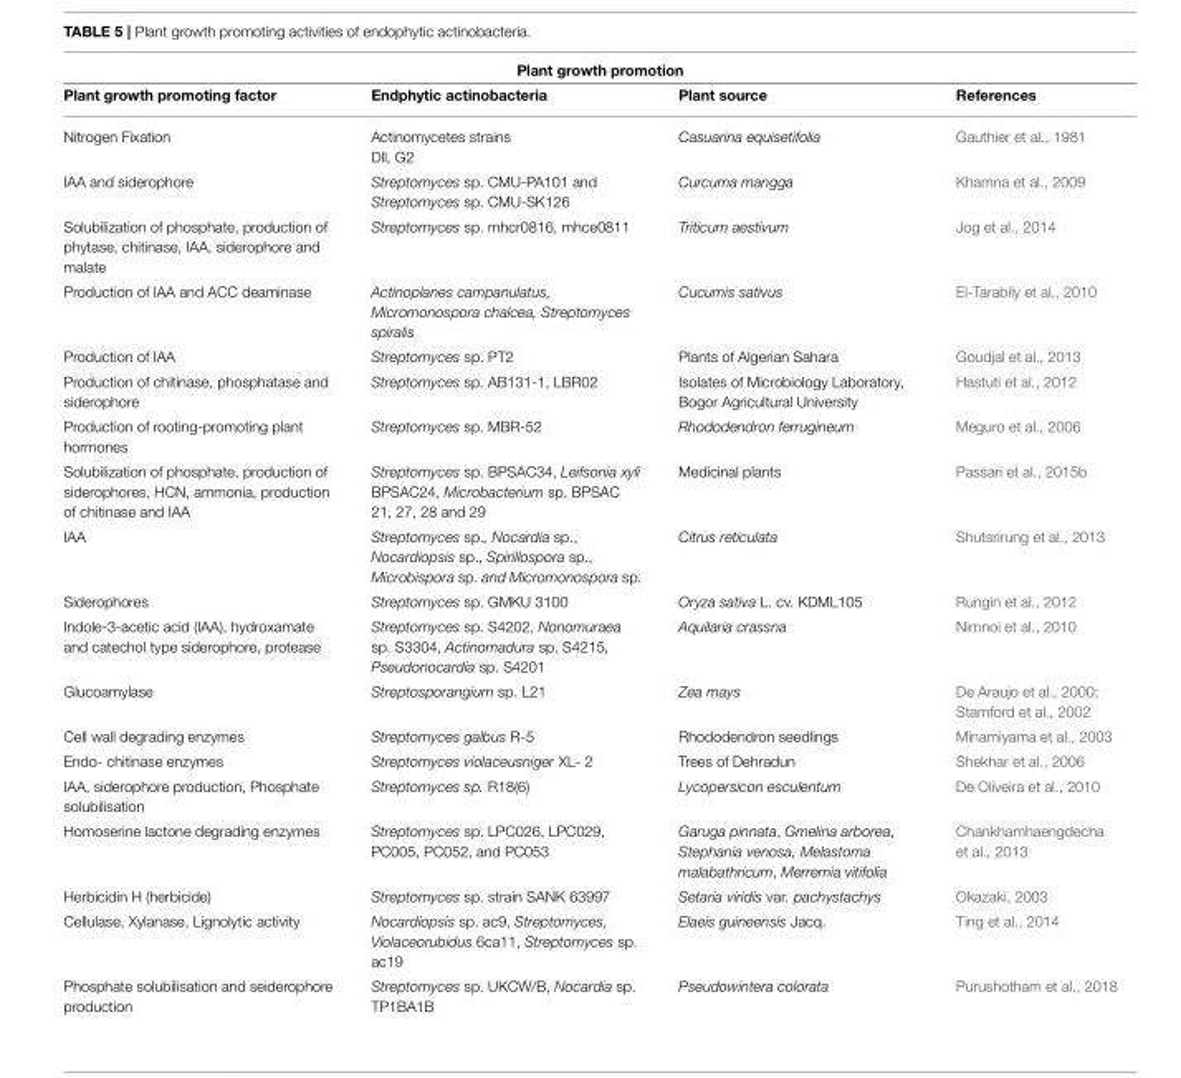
<table><thead><tr><td colspan="4">Plant growth promotion</td></tr><tr><td>Plant growth promoting factor</td><td>Endphytic actinobacteria</td><td>Plant source</td><td>References</td></tr></thead><tbody><tr><td>Nitrogen Fixation</td><td>Actinomycetes strains Dll, G2</td><td>Casuarina equisetifolia</td><td>Gauthier et al., 1981</td></tr><tr><td>IAA and siderophore</td><td>Streptomyces sp. CMU-PA101 and Streptomyces sp. CMU-SK126</td><td>Curcuma mangga</td><td>Khamna et al., 2009</td></tr><tr><td>Solubilization of phosphate, production of phytase, chitinase, IAA, siderophore and malate</td><td>Streptomyces sp. mhcr0816, mhce0811</td><td>Triticum aestivum</td><td>Jog et al., 2014</td></tr><tr><td>Production of IAA and ACC deaminase</td><td>Actinoplanes campanulatus, Micromonospora chalcea, Streptomyces spiralis</td><td>Cucumis sativus</td><td>El-Tarabily et al., 2010</td></tr><tr><td>Production of IAA</td><td>Streptomyces sp. PT2</td><td>Plants of Algerian Sahara</td><td>Goudjal et al., 2013</td></tr><tr><td>Production of chitinase, phosphatase and siderophore</td><td>Streptomyces sp. AB131-1, LBR02</td><td>Isolates of Microbiology Laboratory, Bogor Agricultural University</td><td>Hastuti et al., 2012</td></tr><tr><td>Production of rooting-promoting plant hormones</td><td>Streptomyces sp. MBR-52</td><td>Rhododendron ferrugineum</td><td>Meguro et al., 2006</td></tr><tr><td>Solubilization of phosphate, production of siderophores, HCN, ammonia, production of chitinase and IAA</td><td>Streptomyces sp. BPSAC34, Leifsonia xyli BPSAC24, Microbacterium sp. BPSAC 21, 27, 28 and 29</td><td>Medicinal plants</td><td>Passari et al., 2015b</td></tr><tr><td>IAA</td><td>Streptomyces sp., Nocardia sp., Nocardiopsis sp., Spirillospora sp., Microbispora sp. and Micromonospora sp.</td><td>Citrus reticulata</td><td>Shutsrirung et al., 2013</td></tr><tr><td>Siderophores</td><td>Streptomyces sp. GMKU 3100</td><td>Oryza sativa L. cv. KDML105</td><td>Rungin et al., 2012</td></tr><tr><td>Indole-3-acetic acid (IAA), hydroxamate and catechol type siderophore, protease</td><td>Streptomyces sp. S4202, Nonomuraea sp. S3304, Actinomadura sp. S4215, Pseudonocardia sp. S4201</td><td>Aquilaria crassna</td><td>Nimnoi et al., 2010</td></tr><tr><td>Glucoamylase</td><td>Streptosporangium sp. L21</td><td>Zea mays</td><td>De Araujo et al., 2000; Stamford et al., 2002</td></tr><tr><td>Cell wall degrading enzymes</td><td>Streptomyces galbus R-5</td><td>Rhododendron seedlings</td><td>Minamiyama et al., 2003</td></tr><tr><td>Endo- chitinase enzymes</td><td>Streptomyces violaceusniger XL- 2</td><td>Trees of Dehradun</td><td>Shekhar et al., 2006</td></tr><tr><td>IAA, siderophore production, Phosphate solubilisation</td><td>Streptomyces sp. R18(6)</td><td>Lycopersicon esculentum</td><td>De Oliveira et al., 2010</td></tr><tr><td>Homoserine lactone degrading enzymes</td><td>Streptomyces sp. LPC026, LPC029, PC005, PC052, and PC053</td><td>Garuga pinnata, Gmelina arborea, Stephania venosa, Melastoma malabathricum, Merremia vitifolia</td><td>Chankhamhaengdecha et al., 2013</td></tr><tr><td>Herbicidin H (herbicide)</td><td>Streptomyces sp. strain SANK 63997</td><td>Setaria viridis var. pachystachys</td><td>Okazaki, 2003</td></tr><tr><td>Cellulase, Xylanase, Lignolytic activity</td><td>Nocardiopsis sp. ac9, Streptomyces, Violaceorubidus 6ca11, Streptomyces sp. ac19</td><td>Elaeis guineensis Jacq.</td><td>Ting et al., 2014</td></tr><tr><td>Phosphate solubilisation and seiderophore production</td><td>Streptomyces sp. UKCW/B, Nocardia sp. TP1BA1B</td><td>Pseudowintera colorata</td><td>Purushotham et al., 2018</td></tr></tbody></table>